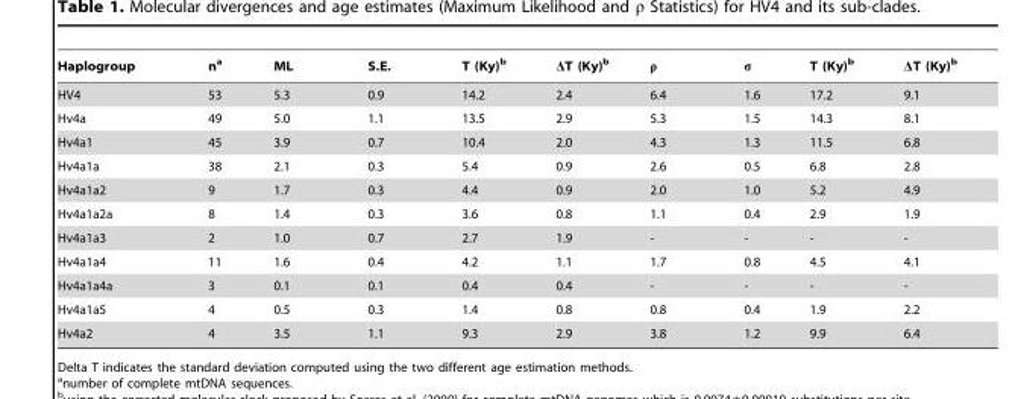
<table><thead><tr><td>Haplogroup</td><td>n<sup>a</sup></td><td>ML</td><td>S.E.</td><td>T (Ky)<sup>b</sup></td><td>ΔT (Ky)<sup>b</sup></td><td>ρ</td><td>σ</td><td>T (Ky)<sup>b</sup></td><td>ΔT (Ky)<sup>b</sup></td></tr></thead><tbody><tr><td>HV4</td><td>53</td><td>5.3</td><td>0.9</td><td>14.2</td><td>2.4</td><td>6.4</td><td>1.6</td><td>17.2</td><td>9.1</td></tr><tr><td>Hv4a</td><td>49</td><td>5.0</td><td>1.1</td><td>13.5</td><td>2.9</td><td>5.3</td><td>1.5</td><td>14.3</td><td>8.1</td></tr><tr><td>Hv4a1</td><td>45</td><td>3.9</td><td>0.7</td><td>10.4</td><td>2.0</td><td>4.3</td><td>1.3</td><td>11.5</td><td>6.8</td></tr><tr><td>Hv4a1a</td><td>38</td><td>2.1</td><td>0.3</td><td>5.4</td><td>0.9</td><td>2.6</td><td>0.5</td><td>6.8</td><td>2.8</td></tr><tr><td>Hv4a1a2</td><td>9</td><td>1.7</td><td>0.3</td><td>4.4</td><td>0.9</td><td>2.0</td><td>1.0</td><td>5.2</td><td>4.9</td></tr><tr><td>Hv4a1a2a</td><td>8</td><td>1.4</td><td>0.3</td><td>3.6</td><td>0.8</td><td>1.1</td><td>0.4</td><td>2.9</td><td>1.9</td></tr><tr><td>Hv4a1a3</td><td>2</td><td>1.0</td><td>0.7</td><td>2.7</td><td>1.9</td><td>-</td><td>-</td><td>-</td><td>-</td></tr><tr><td>Hv4a1a4</td><td>11</td><td>1.6</td><td>0.4</td><td>4.2</td><td>1.1</td><td>1.7</td><td>0.8</td><td>4.5</td><td>4.1</td></tr><tr><td>Hv4a1a4a</td><td>3</td><td>0.1</td><td>0.1</td><td>0.4</td><td>0.4</td><td>-</td><td>-</td><td>-</td><td>-</td></tr><tr><td>Hv4a1a5</td><td>4</td><td>0.5</td><td>0.3</td><td>1.4</td><td>0.8</td><td>0.8</td><td>0.4</td><td>1.9</td><td>2.2</td></tr><tr><td>Hv4a2</td><td>4</td><td>3.5</td><td>1.1</td><td>9.3</td><td>2.9</td><td>3.8</td><td>1.2</td><td>9.9</td><td>6.4</td></tr></tbody></table>